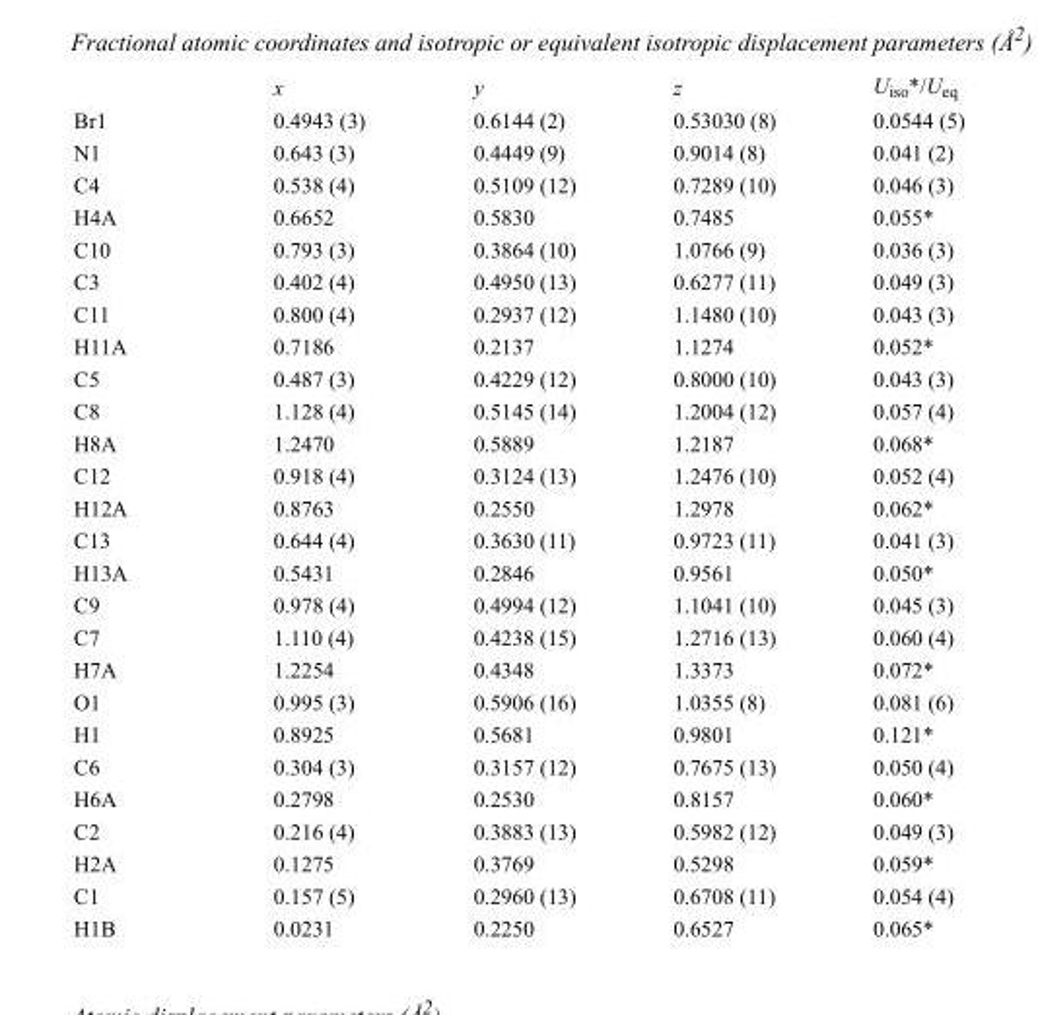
<table><thead><tr><td></td><td>x</td><td>y</td><td>z</td><td>U<sub>iso</sub>*/U<sub>eq</sub></td></tr></thead><tbody><tr><td>Br1</td><td>0.4943 (3)</td><td>0.6144 (2)</td><td>0.53030 (8)</td><td>0.0544 (5)</td></tr><tr><td>N1</td><td>0.643 (3)</td><td>0.4449 (9)</td><td>0.9014 (8)</td><td>0.041 (2)</td></tr><tr><td>C4</td><td>0.538 (4)</td><td>0.5109 (12)</td><td>0.7289 (10)</td><td>0.046 (3)</td></tr><tr><td>H4A</td><td>0.6652</td><td>0.5830</td><td>0.7485</td><td>0.055*</td></tr><tr><td>C10</td><td>0.793 (3)</td><td>0.3864 (10)</td><td>1.0766 (9)</td><td>0.036 (3)</td></tr><tr><td>C3</td><td>0.402 (4)</td><td>0.4950 (13)</td><td>0.6277 (11)</td><td>0.049 (3)</td></tr><tr><td>C11</td><td>0.800 (4)</td><td>0.2937 (12)</td><td>1.1480 (10)</td><td>0.043 (3)</td></tr><tr><td>H11A</td><td>0.7186</td><td>0.2137</td><td>1.1274</td><td>0.052*</td></tr><tr><td>C5</td><td>0.487 (3)</td><td>0.4229 (12)</td><td>0.8000 (10)</td><td>0.043 (3)</td></tr><tr><td>C8</td><td>1.128 (4)</td><td>0.5145 (14)</td><td>1.2004 (12)</td><td>0.057 (4)</td></tr><tr><td>H8A</td><td>1.2470</td><td>0.5889</td><td>1.2187</td><td>0.068*</td></tr><tr><td>C12</td><td>0.918 (4)</td><td>0.3124 (13)</td><td>1.2476 (10)</td><td>0.052 (4)</td></tr><tr><td>H12A</td><td>0.8763</td><td>0.2550</td><td>1.2978</td><td>0.062*</td></tr><tr><td>C13</td><td>0.644 (4)</td><td>0.3630 (11)</td><td>0.9723 (11)</td><td>0.041 (3)</td></tr><tr><td>H13A</td><td>0.5431</td><td>0.2846</td><td>0.9561</td><td>0.050*</td></tr><tr><td>C9</td><td>0.978 (4)</td><td>0.4994 (12)</td><td>1.1041 (10)</td><td>0.045 (3)</td></tr><tr><td>C7</td><td>1.110 (4)</td><td>0.4238 (15)</td><td>1.2716 (13)</td><td>0.060 (4)</td></tr><tr><td>H7A</td><td>1.2254</td><td>0.4348</td><td>1.3373</td><td>0.072*</td></tr><tr><td>O1</td><td>0.995 (3)</td><td>0.5906 (16)</td><td>1.0355 (8)</td><td>0.081 (6)</td></tr><tr><td>H1</td><td>0.8925</td><td>0.5681</td><td>0.9801</td><td>0.121*</td></tr><tr><td>C6</td><td>0.304 (3)</td><td>0.3157 (12)</td><td>0.7675 (13)</td><td>0.050 (4)</td></tr><tr><td>H6A</td><td>0.2798</td><td>0.2530</td><td>0.8157</td><td>0.060*</td></tr><tr><td>C2</td><td>0.216 (4)</td><td>0.3883 (13)</td><td>0.5982 (12)</td><td>0.049 (3)</td></tr><tr><td>H2A</td><td>0.1275</td><td>0.3769</td><td>0.5298</td><td>0.059*</td></tr><tr><td>C1</td><td>0.157 (5)</td><td>0.2960 (13)</td><td>0.6708 (11)</td><td>0.054 (4)</td></tr><tr><td>H1B</td><td>0.0231</td><td>0.2250</td><td>0.6527</td><td>0.065*</td></tr></tbody></table>